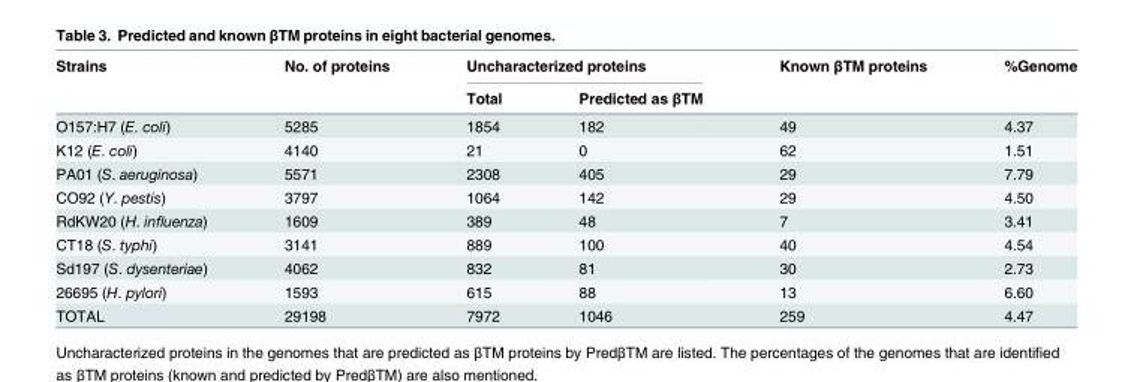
<table><thead><tr><td rowspan="2">Strains</td><td rowspan="2">No. of proteins</td><td colspan="2">Uncharacterized proteins</td><td rowspan="2">Known βTM proteins</td><td rowspan="2">%Genome</td></tr><tr><td>Total</td><td>Predicted as βTM</td></tr></thead><tbody><tr><td>O157:H7 (E. coli)</td><td>5285</td><td>1854</td><td>182</td><td>49</td><td>4.37</td></tr><tr><td>K12 (E. coli)</td><td>4140</td><td>21</td><td>0</td><td>62</td><td>1.51</td></tr><tr><td>PA01 (S. aeruginosa)</td><td>5571</td><td>2308</td><td>405</td><td>29</td><td>7.79</td></tr><tr><td>CO92 (Y. pestis)</td><td>3797</td><td>1064</td><td>142</td><td>29</td><td>4.50</td></tr><tr><td>RdKW20 (H. influenza)</td><td>1609</td><td>389</td><td>48</td><td>7</td><td>3.41</td></tr><tr><td>CT18 (S. typhi)</td><td>3141</td><td>889</td><td>100</td><td>40</td><td>4.54</td></tr><tr><td>Sd197 (S. dysenteriae)</td><td>4062</td><td>832</td><td>81</td><td>30</td><td>2.73</td></tr><tr><td>26695 (H. pylori)</td><td>1593</td><td>615</td><td>88</td><td>13</td><td>6.60</td></tr><tr><td>TOTAL</td><td>29198</td><td>7972</td><td>1046</td><td>259</td><td>4.47</td></tr></tbody></table>